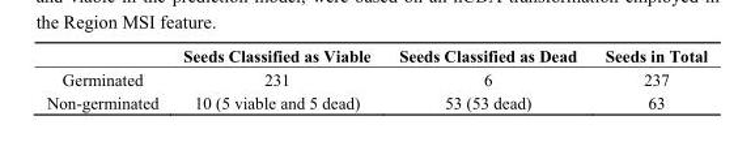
<table><thead><tr><td></td><td>Seeds Classified as Viable</td><td>Seeds Classified as Dead</td><td>Seeds in Total</td></tr></thead><tbody><tr><td>Germinated</td><td>231</td><td>6</td><td>237</td></tr><tr><td>Non-germinated</td><td>10 (5 viable and 5 dead)</td><td>53 (53 dead)</td><td>63</td></tr></tbody></table>